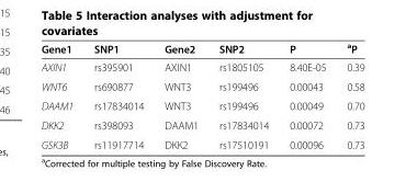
<table><thead><tr><td>Gene1</td><td>SNP1</td><td>Gene2</td><td>SNP2</td><td>P</td><td><sup>a</sup>P</td></tr></thead><tbody><tr><td>AXIN1</td><td>rs395901</td><td>AXIN1</td><td>rs1805105</td><td>8.40E-05</td><td>0.39</td></tr><tr><td>WNT6</td><td>rs690877</td><td>WNT3</td><td>rs199496</td><td>0.00043</td><td>0.58</td></tr><tr><td>DAAM1</td><td>rs17834014</td><td>WNT3</td><td>rs199496</td><td>0.00049</td><td>0.70</td></tr><tr><td>DKK2</td><td>rs398093</td><td>DAAM1</td><td>rs17834014</td><td>0.00072</td><td>0.73</td></tr><tr><td>GSK3B</td><td>rs11917714</td><td>DKK2</td><td>rs17510191</td><td>0.00096</td><td>0.73</td></tr></tbody></table>